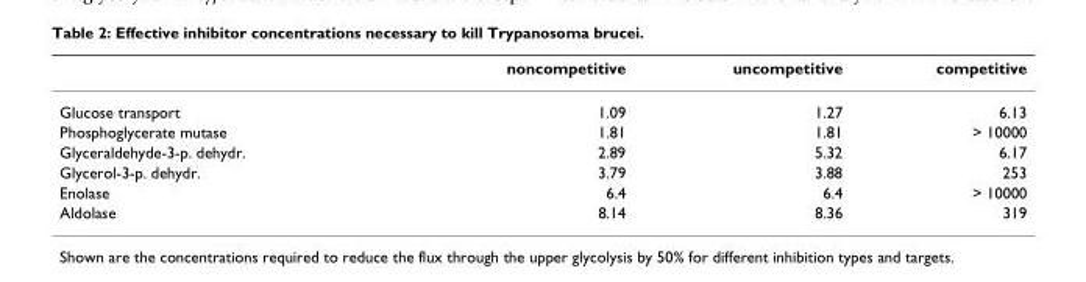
<table><thead><tr><td></td><td>noncompetitive</td><td>uncompetitive</td><td>competitive</td></tr></thead><tbody><tr><td>Glucose transport</td><td>1.09</td><td>1.27</td><td>6.13</td></tr><tr><td>Phosphoglycerate mutase</td><td>1.81</td><td>1.81</td><td>&gt; 10000</td></tr><tr><td>Glyceraldehyde-3-p. dehydr.</td><td>2.89</td><td>5.32</td><td>6.17</td></tr><tr><td>Glycerol-3-p. dehydr.</td><td>3.79</td><td>3.88</td><td>253</td></tr><tr><td>Enolase</td><td>6.4</td><td>6.4</td><td>&gt; 10000</td></tr><tr><td>Aldolase</td><td>8.14</td><td>8.36</td><td>319</td></tr></tbody></table>